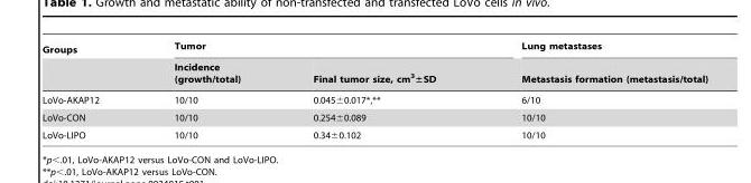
<table><thead><tr><td rowspan="2">Groups</td><td colspan="2">Tumor</td><td rowspan="2">Lung metastases Metastasis formation (metastasis/total)</td></tr><tr><td>Incidence (growth/total)</td><td>Final tumor size, cm<sup>3</sup>±SD</td></tr></thead><tbody><tr><td>LoVo-AKAP12</td><td>10/10</td><td>0.045±0.017*,**</td><td>6/10</td></tr><tr><td>LoVo-CON</td><td>10/10</td><td>0.254±0.089</td><td>10/10</td></tr><tr><td>LoVo-LIPO</td><td>10/10</td><td>0.34±0.102</td><td>10/10</td></tr></tbody></table>